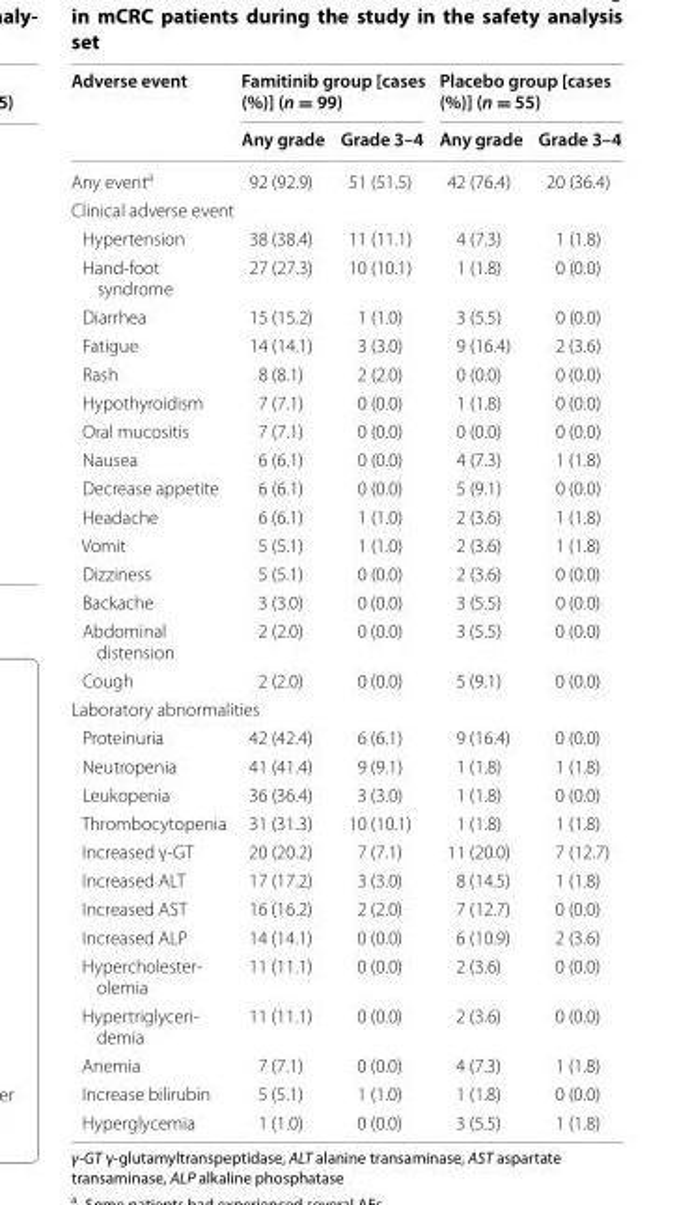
<table><thead><tr><td rowspan="2">Adverse event</td><td colspan="2">Famitinib group [cases (%)] (n = 99)</td><td colspan="2">Placebo group [cases (%)] (n = 55)</td></tr><tr><td>Any grade</td><td>Grade 3–4</td><td>Any grade</td><td>Grade 3–4</td></tr></thead><tbody><tr><td>Any event<sup>a</sup></td><td>92 (92.9)</td><td>51 (51.5)</td><td>42 (76.4)</td><td>20 (36.4)</td></tr><tr><td colspan="5">Clinical adverse event</td></tr><tr><td>Hypertension</td><td>38 (38.4)</td><td>11 (11.1)</td><td>4 (7.3)</td><td>1 (1.8)</td></tr><tr><td>Hand‑foot syndrome</td><td>27 (27.3)</td><td>10 (10.1)</td><td>1 (1.8)</td><td>0 (0.0)</td></tr><tr><td>Diarrhea</td><td>15 (15.2)</td><td>1 (1.0)</td><td>3 (5.5)</td><td>0 (0.0)</td></tr><tr><td>Fatigue</td><td>14 (14.1)</td><td>3 (3.0)</td><td>9 (16.4)</td><td>2 (3.6)</td></tr><tr><td>Rash</td><td>8 (8.1)</td><td>2 (2.0)</td><td>0 (0.0)</td><td>0 (0.0)</td></tr><tr><td>Hypothyroidism</td><td>7 (7.1)</td><td>0 (0.0)</td><td>1 (1.8)</td><td>0 (0.0)</td></tr><tr><td>Oral mucositis</td><td>7 (7.1)</td><td>0 (0.0)</td><td>0 (0.0)</td><td>0 (0.0)</td></tr><tr><td>Nausea</td><td>6 (6.1)</td><td>0 (0.0)</td><td>4 (7.3)</td><td>1 (1.8)</td></tr><tr><td>Decrease appetite</td><td>6 (6.1)</td><td>0 (0.0)</td><td>5 (9.1)</td><td>0 (0.0)</td></tr><tr><td>Headache</td><td>6 (6.1)</td><td>1 (1.0)</td><td>2 (3.6)</td><td>1 (1.8)</td></tr><tr><td>Vomit</td><td>5 (5.1)</td><td>1 (1.0)</td><td>2 (3.6)</td><td>1 (1.8)</td></tr><tr><td>Dizziness</td><td>5 (5.1)</td><td>0 (0.0)</td><td>2 (3.6)</td><td>0 (0.0)</td></tr><tr><td>Backache</td><td>3 (3.0)</td><td>0 (0.0)</td><td>3 (5.5)</td><td>0 (0.0)</td></tr><tr><td>Abdominal distension</td><td>2 (2.0)</td><td>0 (0.0)</td><td>3 (5.5)</td><td>0 (0.0)</td></tr><tr><td>Cough</td><td>2 (2.0)</td><td>0 (0.0)</td><td>5 (9.1)</td><td>0 (0.0)</td></tr><tr><td colspan="5">Laboratory abnormalities</td></tr><tr><td>Proteinuria</td><td>42 (42.4)</td><td>6 (6.1)</td><td>9 (16.4)</td><td>0 (0.0)</td></tr><tr><td>Neutropenia</td><td>41 (41.4)</td><td>9 (9.1)</td><td>1 (1.8)</td><td>1 (1.8)</td></tr><tr><td>Leukopenia</td><td>36 (36.4)</td><td>3 (3.0)</td><td>1 (1.8)</td><td>0 (0.0)</td></tr><tr><td>Thrombocytopenia</td><td>31 (31.3)</td><td>10 (10.1)</td><td>1 (1.8)</td><td>1 (1.8)</td></tr><tr><td>Increased γ‑GT</td><td>20 (20.2)</td><td>7 (7.1)</td><td>11 (20.0)</td><td>7 (12.7)</td></tr><tr><td>Increased ALT</td><td>17 (17.2)</td><td>3 (3.0)</td><td>8 (14.5)</td><td>1 (1.8)</td></tr><tr><td>Increased AST</td><td>16 (16.2)</td><td>2 (2.0)</td><td>7 (12.7)</td><td>0 (0.0)</td></tr><tr><td>Increased ALP</td><td>14 (14.1)</td><td>0 (0.0)</td><td>6 (10.9)</td><td>2 (3.6)</td></tr><tr><td>Hypercholester‑ olemia</td><td>11 (11.1)</td><td>0 (0.0)</td><td>2 (3.6)</td><td>0 (0.0)</td></tr><tr><td>Hypertriglyceri‑ demia</td><td>11 (11.1)</td><td>0 (0.0)</td><td>2 (3.6)</td><td>0 (0.0)</td></tr><tr><td>Anemia</td><td>7 (7.1)</td><td>0 (0.0)</td><td>4 (7.3)</td><td>1 (1.8)</td></tr><tr><td>Increase bilirubin</td><td>5 (5.1)</td><td>1 (1.0)</td><td>1 (1.8)</td><td>0 (0.0)</td></tr><tr><td>Hyperglycemia</td><td>1 (1.0)</td><td>0 (0.0)</td><td>3 (5.5)</td><td>1 (1.8)</td></tr></tbody></table>